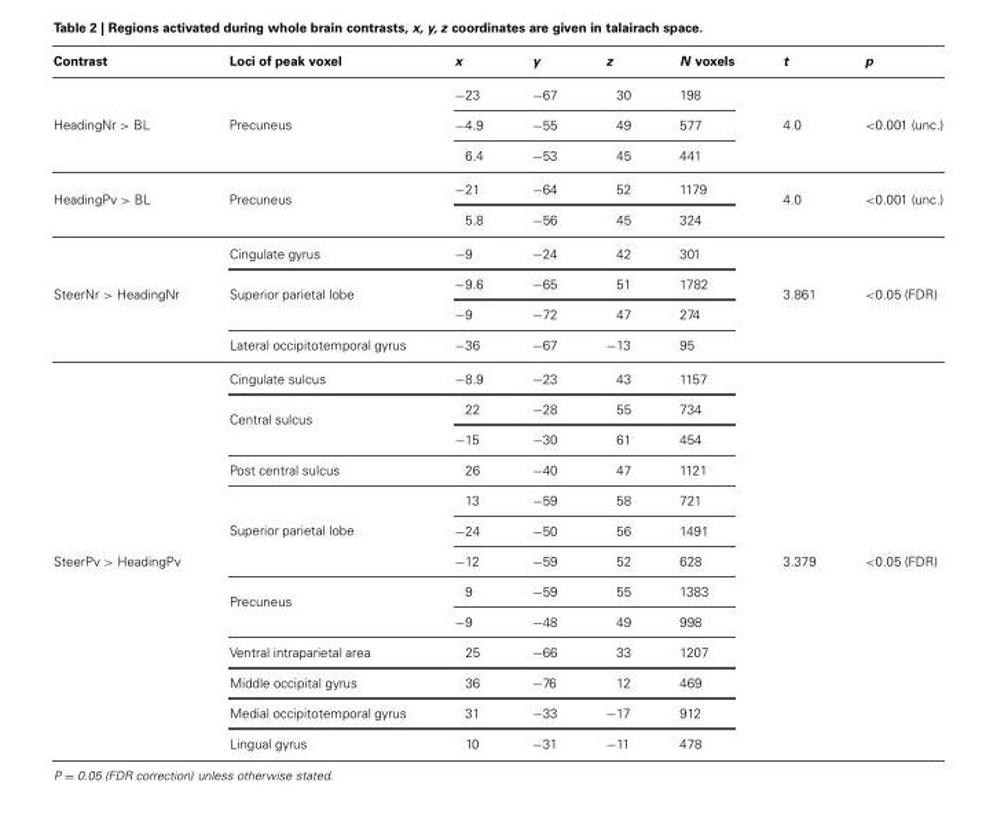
<table><thead><tr><td>Contrast</td><td>Loci of peak voxel</td><td>x</td><td>y</td><td>z</td><td>N voxels</td><td>t</td><td>p</td></tr></thead><tbody><tr><td rowspan="3">HeadingNr &gt; BL</td><td rowspan="3">Precuneus</td><td>−23</td><td>−67</td><td>30</td><td>198</td><td rowspan="3">4.0</td><td rowspan="3">&lt;0.001 (unc.)</td></tr><tr><td>−4.9</td><td>−55</td><td>49</td><td>577</td></tr><tr><td>6.4</td><td>−53</td><td>45</td><td>441</td></tr><tr><td rowspan="2">HeadingPv &gt; BL</td><td rowspan="2">Precuneus</td><td>−21</td><td>−64</td><td>52</td><td>1179</td><td rowspan="2">4.0</td><td rowspan="2">&lt;0.001 (unc.)</td></tr><tr><td>5.8</td><td>−56</td><td>45</td><td>324</td></tr><tr><td rowspan="4">SteerNr &gt; HeadingNr</td><td>Cingulate gyrus</td><td>−9</td><td>−24</td><td>42</td><td>301</td><td rowspan="4">3.861</td><td rowspan="4">&lt;0.05 (FDR)</td></tr><tr><td rowspan="2">Superior parietal lobe</td><td>−9.6</td><td>−65</td><td>51</td><td>1782</td></tr><tr><td>−9</td><td>−72</td><td>47</td><td>274</td></tr><tr><td>Lateral occipitotemporal gyrus</td><td>−36</td><td>−67</td><td>−13</td><td>95</td></tr><tr><td rowspan="13">SteerPv &gt; HeadingPv</td><td>Cingulate sulcus</td><td>−8.9</td><td>−23</td><td>43</td><td>1157</td><td rowspan="13">3.379</td><td rowspan="13">&lt;0.05 (FDR)</td></tr><tr><td rowspan="2">Central sulcus</td><td>22</td><td>−28</td><td>55</td><td>734</td></tr><tr><td>−15</td><td>−30</td><td>61</td><td>454</td></tr><tr><td>Post central sulcus</td><td>26</td><td>−40</td><td>47</td><td>1121</td></tr><tr><td rowspan="3">Superior parietal lobe</td><td>13</td><td>−59</td><td>58</td><td>721</td></tr><tr><td>−24</td><td>−50</td><td>56</td><td>1491</td></tr><tr><td>−12</td><td>−59</td><td>52</td><td>628</td></tr><tr><td rowspan="2">Precuneus</td><td>9</td><td>−59</td><td>55</td><td>1383</td></tr><tr><td>−9</td><td>−48</td><td>49</td><td>998</td></tr><tr><td>Ventral intraparietal area</td><td>25</td><td>−66</td><td>33</td><td>1207</td></tr><tr><td>Middle occipital gyrus</td><td>36</td><td>−76</td><td>12</td><td>469</td></tr><tr><td>Medial occipitotemporal gyrus</td><td>31</td><td>−33</td><td>−17</td><td>912</td></tr><tr><td>Lingual gyrus</td><td>10</td><td>−31</td><td>−11</td><td>478</td></tr></tbody></table>